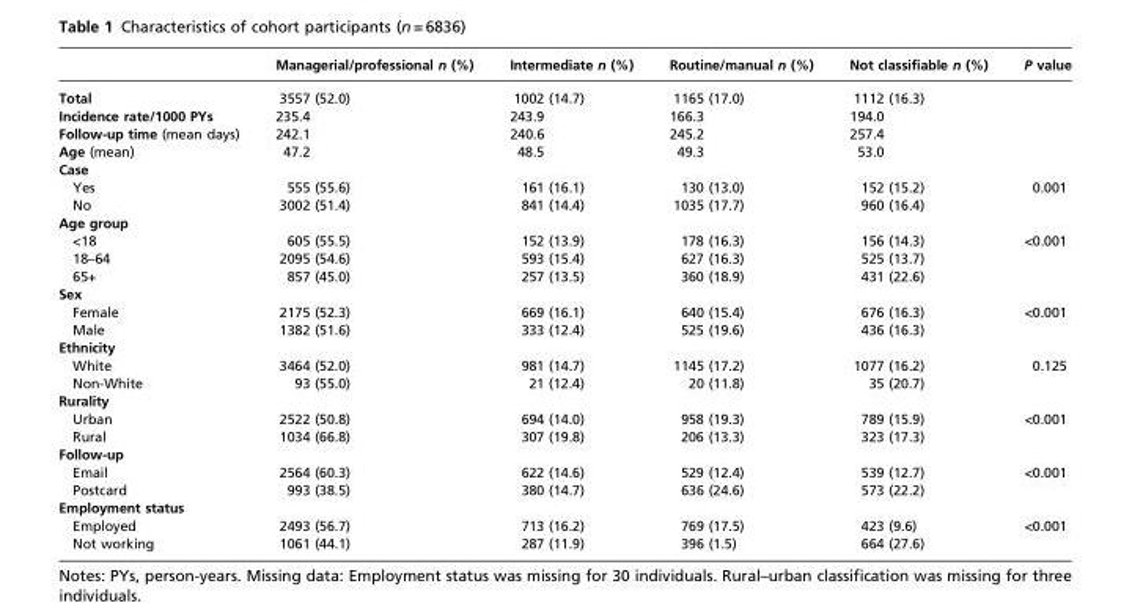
<table><thead><tr><td></td><td>Managerial/professional n (%)</td><td>Intermediate n (%)</td><td>Routine/manual n (%)</td><td>Not classifiable n (%)</td><td>P value</td></tr></thead><tbody><tr><td>Total</td><td>3557 (52.0)</td><td>1002 (14.7)</td><td>1165 (17.0)</td><td>1112 (16.3)</td><td></td></tr><tr><td>Incidence rate/1000 PYs</td><td>235.4</td><td>243.9</td><td>166.3</td><td>194.0</td><td></td></tr><tr><td>Follow-up time (mean days)</td><td>242.1</td><td>240.6</td><td>245.2</td><td>257.4</td><td></td></tr><tr><td>Age (mean)</td><td>47.2</td><td>48.5</td><td>49.3</td><td>53.0</td><td></td></tr><tr><td colspan="6">Case</td></tr><tr><td>Yes</td><td>555 (55.6)</td><td>161 (16.1)</td><td>130 (13.0)</td><td>152 (15.2)</td><td>0.001</td></tr><tr><td>No</td><td>3002 (51.4)</td><td>841 (14.4)</td><td>1035 (17.7)</td><td>960 (16.4)</td><td></td></tr><tr><td colspan="6">Age group</td></tr><tr><td>&lt;18</td><td>605 (55.5)</td><td>152 (13.9)</td><td>178 (16.3)</td><td>156 (14.3)</td><td>&lt;0.001</td></tr><tr><td>18–64</td><td>2095 (54.6)</td><td>593 (15.4)</td><td>627 (16.3)</td><td>525 (13.7)</td><td></td></tr><tr><td>65+</td><td>857 (45.0)</td><td>257 (13.5)</td><td>360 (18.9)</td><td>431 (22.6)</td><td></td></tr><tr><td colspan="6">Sex</td></tr><tr><td>Female</td><td>2175 (52.3)</td><td>669 (16.1)</td><td>640 (15.4)</td><td>676 (16.3)</td><td>&lt;0.001</td></tr><tr><td>Male</td><td>1382 (51.6)</td><td>333 (12.4)</td><td>525 (19.6)</td><td>436 (16.3)</td><td></td></tr><tr><td colspan="6">Ethnicity</td></tr><tr><td>White</td><td>3464 (52.0)</td><td>981 (14.7)</td><td>1145 (17.2)</td><td>1077 (16.2)</td><td>0.125</td></tr><tr><td>Non-White</td><td>93 (55.0)</td><td>21 (12.4)</td><td>20 (11.8)</td><td>35 (20.7)</td><td></td></tr><tr><td colspan="6">Rurality</td></tr><tr><td>Urban</td><td>2522 (50.8)</td><td>694 (14.0)</td><td>958 (19.3)</td><td>789 (15.9)</td><td>&lt;0.001</td></tr><tr><td>Rural</td><td>1034 (66.8)</td><td>307 (19.8)</td><td>206 (13.3)</td><td>323 (17.3)</td><td></td></tr><tr><td colspan="6">Follow-up</td></tr><tr><td>Email</td><td>2564 (60.3)</td><td>622 (14.6)</td><td>529 (12.4)</td><td>539 (12.7)</td><td>&lt;0.001</td></tr><tr><td>Postcard</td><td>993 (38.5)</td><td>380 (14.7)</td><td>636 (24.6)</td><td>573 (22.2)</td><td></td></tr><tr><td colspan="6">Employment status</td></tr><tr><td>Employed</td><td>2493 (56.7)</td><td>713 (16.2)</td><td>769 (17.5)</td><td>423 (9.6)</td><td>&lt;0.001</td></tr><tr><td>Not working</td><td>1061 (44.1)</td><td>287 (11.9)</td><td>396 (1.5)</td><td>664 (27.6)</td><td></td></tr></tbody></table>